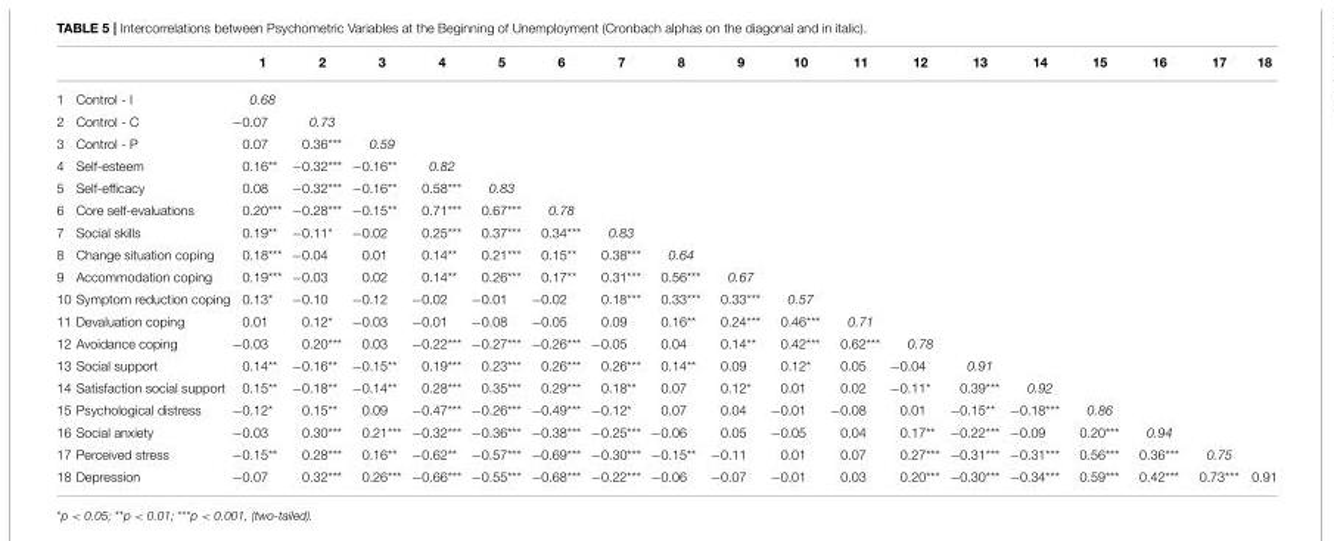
<table><thead><tr><td></td><td></td><td>1</td><td>2</td><td>3</td><td>4</td><td>5</td><td>6</td><td>7</td><td>8</td><td>9</td><td>10</td><td>11</td><td>12</td><td>13</td><td>14</td><td>15</td><td>16</td><td>17</td><td>18</td></tr></thead><tbody><tr><td>1</td><td>Control - I</td><td>0.68</td><td></td><td></td><td></td><td></td><td></td><td></td><td></td><td></td><td></td><td></td><td></td><td></td><td></td><td></td><td></td><td></td><td></td></tr><tr><td>2</td><td>Control - C</td><td>−0.07</td><td>0.73</td><td></td><td></td><td></td><td></td><td></td><td></td><td></td><td></td><td></td><td></td><td></td><td></td><td></td><td></td><td></td><td></td></tr><tr><td>3</td><td>Control - P</td><td>0.07</td><td>0.36***</td><td>0.59</td><td></td><td></td><td></td><td></td><td></td><td></td><td></td><td></td><td></td><td></td><td></td><td></td><td></td><td></td><td></td></tr><tr><td>4</td><td>Self-esteem</td><td>0.16**</td><td>−0.32***</td><td>−0.16**</td><td>0.82</td><td></td><td></td><td></td><td></td><td></td><td></td><td></td><td></td><td></td><td></td><td></td><td></td><td></td><td></td></tr><tr><td>5</td><td>Self-efficacy</td><td>0.08</td><td>−0.32***</td><td>−0.16**</td><td>0.58***</td><td>0.83</td><td></td><td></td><td></td><td></td><td></td><td></td><td></td><td></td><td></td><td></td><td></td><td></td><td></td></tr><tr><td>6</td><td>Core self-evaluations</td><td>0.20***</td><td>−0.28***</td><td>−0.15**</td><td>0.71***</td><td>0.67***</td><td>0.78</td><td></td><td></td><td></td><td></td><td></td><td></td><td></td><td></td><td></td><td></td><td></td><td></td></tr><tr><td>7</td><td>Social skills</td><td>0.19**</td><td>−0.11*</td><td>−0.02</td><td>0.25***</td><td>0.37***</td><td>0.34***</td><td>0.83</td><td></td><td></td><td></td><td></td><td></td><td></td><td></td><td></td><td></td><td></td><td></td></tr><tr><td>8</td><td>Change situation coping</td><td>0.18***</td><td>−0.04</td><td>0.01</td><td>0.14**</td><td>0.21***</td><td>0.15**</td><td>0.38***</td><td>0.64</td><td></td><td></td><td></td><td></td><td></td><td></td><td></td><td></td><td></td><td></td></tr><tr><td>9</td><td>Accommodation coping</td><td>0.19***</td><td>−0.03</td><td>0.02</td><td>0.14**</td><td>0.26***</td><td>0.17**</td><td>0.31***</td><td>0.56***</td><td>0.67</td><td></td><td></td><td></td><td></td><td></td><td></td><td></td><td></td><td></td></tr><tr><td>10</td><td>Symptom reduction coping</td><td>0.13*</td><td>−0.10</td><td>−0.12</td><td>−0.02</td><td>−0.01</td><td>−0.02</td><td>0.18***</td><td>0.33***</td><td>0.33***</td><td>0.57</td><td></td><td></td><td></td><td></td><td></td><td></td><td></td><td></td></tr><tr><td>11</td><td>Devaluation coping</td><td>0.01</td><td>0.12*</td><td>−0.03</td><td>−0.01</td><td>−0.08</td><td>−0.05</td><td>0.09</td><td>0.16**</td><td>0.24***</td><td>0.46***</td><td>0.71</td><td></td><td></td><td></td><td></td><td></td><td></td><td></td></tr><tr><td>12</td><td>Avoidance coping</td><td>−0.03</td><td>0.20***</td><td>0.03</td><td>−0.22***</td><td>−0.27***</td><td>−0.26***</td><td>−0.05</td><td>0.04</td><td>0.14**</td><td>0.42***</td><td>0.62***</td><td>0.78</td><td></td><td></td><td></td><td></td><td></td><td></td></tr><tr><td>13</td><td>Social support</td><td>0.14**</td><td>−0.16**</td><td>−0.15**</td><td>0.19***</td><td>0.23***</td><td>0.26***</td><td>0.26***</td><td>0.14**</td><td>0.09</td><td>0.12*</td><td>0.05</td><td>−0.04</td><td>0.91</td><td></td><td></td><td></td><td></td><td></td></tr><tr><td>14</td><td>Satisfaction social support</td><td>0.15**</td><td>−0.18**</td><td>−0.14**</td><td>0.28***</td><td>0.35***</td><td>0.29***</td><td>0.18**</td><td>0.07</td><td>0.12*</td><td>0.01</td><td>0.02</td><td>−0.11*</td><td>0.39***</td><td>0.92</td><td></td><td></td><td></td><td></td></tr><tr><td>15</td><td>Psychological distress</td><td>−0.12*</td><td>0.15**</td><td>0.09</td><td>−0.47***</td><td>−0.26***</td><td>−0.49***</td><td>−0.12*</td><td>0.07</td><td>0.04</td><td>−0.01</td><td>−0.08</td><td>0.01</td><td>−0.15**</td><td>−0.18***</td><td>0.86</td><td></td><td></td><td></td></tr><tr><td>16</td><td>Social anxiety</td><td>−0.03</td><td>0.30***</td><td>0.21***</td><td>−0.32***</td><td>−0.36***</td><td>−0.38***</td><td>−0.25***</td><td>−0.06</td><td>0.05</td><td>−0.05</td><td>0.04</td><td>0.17**</td><td>−0.22***</td><td>−0.09</td><td>0.20***</td><td>0.94</td><td></td><td></td></tr><tr><td>17</td><td>Perceived stress</td><td>−0.15**</td><td>0.28***</td><td>0.16**</td><td>−0.62**</td><td>−0.57***</td><td>−0.69***</td><td>−0.30***</td><td>−0.15**</td><td>−0.11</td><td>0.01</td><td>0.07</td><td>0.27***</td><td>−0.31***</td><td>−0.31***</td><td>0.56***</td><td>0.36***</td><td>0.75</td><td></td></tr><tr><td>18</td><td>Depression</td><td>−0.07</td><td>0.32***</td><td>0.26***</td><td>−0.66***</td><td>−0.55***</td><td>−0.68***</td><td>−0.22***</td><td>−0.06</td><td>−0.07</td><td>−0.01</td><td>0.03</td><td>0.20***</td><td>−0.30***</td><td>−0.34***</td><td>0.59***</td><td>0.42***</td><td>0.73***</td><td>0.91</td></tr></tbody></table>